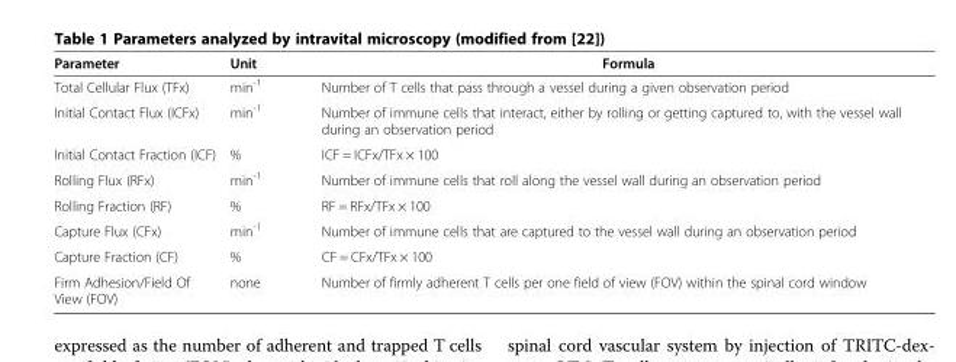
<table><thead><tr><td>Parameter</td><td>Unit</td><td>Formula</td></tr></thead><tbody><tr><td>Total Cellular Flux (TFx)</td><td>min<sup>-1</sup></td><td>Number of T cells that pass through a vessel during a given observation period</td></tr><tr><td>Initial Contact Flux (ICFx)</td><td>min<sup>-1</sup></td><td>Number of immune cells that interact, either by rolling or getting captured to, with the vessel wall during an observation period</td></tr><tr><td>Initial Contact Fraction (ICF)</td><td>%</td><td>ICF = ICFx/TFx × 100</td></tr><tr><td>Rolling Flux (RFx)</td><td>min<sup>-1</sup></td><td>Number of immune cells that roll along the vessel wall during an observation period</td></tr><tr><td>Rolling Fraction (RF)</td><td>%</td><td>RF = RFx/TFx × 100</td></tr><tr><td>Capture Flux (CFx)</td><td>min<sup>-1</sup></td><td>Number of immune cells that are captured to the vessel wall during an observation period</td></tr><tr><td>Capture Fraction (CF)</td><td>%</td><td>CF = CFx/TFx × 100</td></tr><tr><td>Firm Adhesion/Field Of View (FOV)</td><td>none</td><td>Number of firmly adherent T cells per one field of view (FOV) within the spinal cord window</td></tr></tbody></table>